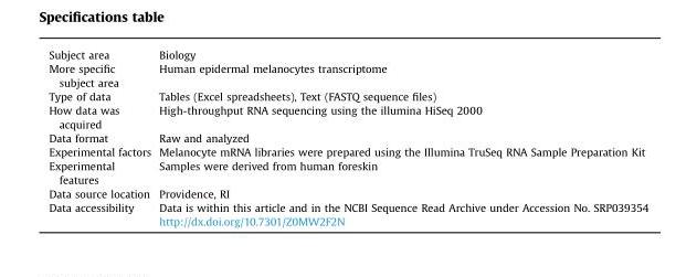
<table><tbody><tr><td>Subject area</td><td>Biology</td></tr><tr><td>More specific subject area</td><td>Human epidermal melanocytes transcriptome</td></tr><tr><td>Type of data</td><td>Tables (Excel spreadsheets), Text (FASTQ sequence files)</td></tr><tr><td>How data was acquired</td><td>High-throughput RNA sequencing using the illumina HiSeq 2000</td></tr><tr><td>Data format</td><td>Raw and analyzed</td></tr><tr><td>Experimental factors</td><td>Melanocyte mRNA libraries were prepared using the Illumina TruSeq RNA Sample Preparation Kit</td></tr><tr><td>Experimental features</td><td>Samples were derived from human foreskin</td></tr><tr><td>Data source location</td><td>Providence, RI</td></tr><tr><td>Data accessibility</td><td>Data is within this article and in the NCBI Sequence Read Archive under Accession No. SRP039354 http://dx.doi.org/10.7301/Z0MW2F2N</td></tr></tbody></table>